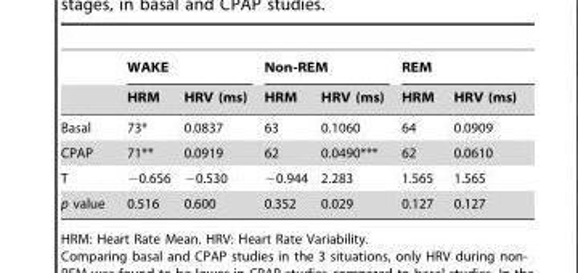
<table><thead><tr><td rowspan="2"></td><td colspan="2">WAKE</td><td colspan="2">Non-REM</td><td colspan="2">REM</td></tr><tr><td>HRM</td><td>HRV (ms)</td><td>HRM</td><td>HRV (ms)</td><td>HRM</td><td>HRV (ms)</td></tr></thead><tbody><tr><td>Basal</td><td>73*</td><td>0.0837</td><td>63</td><td>0.1060</td><td>64</td><td>0.0909</td></tr><tr><td>CPAP</td><td>71**</td><td>0.0919</td><td>62</td><td>0.0490***</td><td>62</td><td>0.0610</td></tr><tr><td>T</td><td>−0.656</td><td>−0.530</td><td>−0.944</td><td>2.283</td><td>1.565</td><td>1.565</td></tr><tr><td>p value</td><td>0.516</td><td>0.600</td><td>0.352</td><td>0.029</td><td>0.127</td><td>0.127</td></tr></tbody></table>